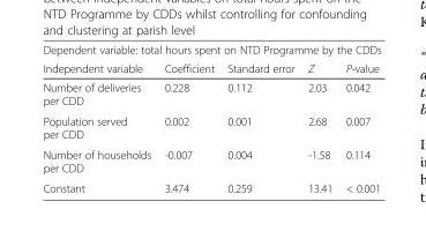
<table><thead><tr><td colspan="5">Dependent variable: total hours spent on NTD Programme by the CDDs</td></tr><tr><td>Independent variable</td><td>Coefficient</td><td>Standard error</td><td>Z</td><td>P-value</td></tr></thead><tbody><tr><td>Number of deliveries per CDD</td><td>0.228</td><td>0.112</td><td>2.03</td><td>0.042</td></tr><tr><td>Population served per CDD</td><td>0.002</td><td>0.001</td><td>2.68</td><td>0.007</td></tr><tr><td>Number of households per CDD</td><td>-0.007</td><td>0.004</td><td>-1.58</td><td>0.114</td></tr><tr><td>Constant</td><td>3.474</td><td>0.259</td><td>13.41</td><td>&lt; 0.001</td></tr></tbody></table>